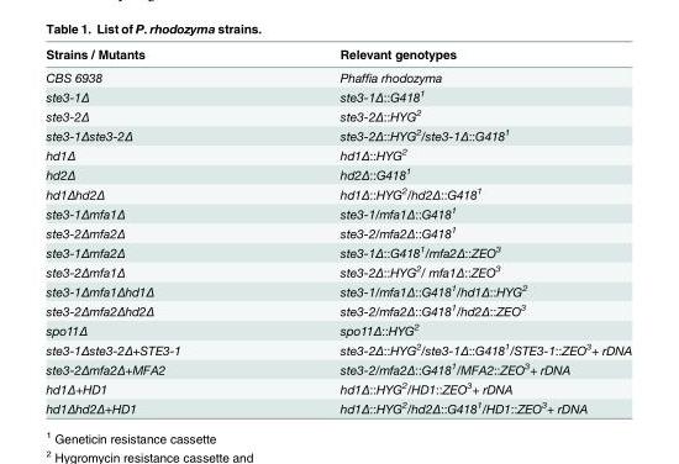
<table><thead><tr><td>Strains / Mutants</td><td>Relevant genotypes</td></tr></thead><tbody><tr><td>CBS 6938</td><td>Phaffia rhodozyma</td></tr><tr><td>ste3-1Δ</td><td>ste3-1Δ::G418<sup>1</sup></td></tr><tr><td>ste3-2Δ</td><td>ste3-2Δ::HYG<sup>2</sup></td></tr><tr><td>ste3-1Δste3-2Δ</td><td>ste3-2Δ::HYG<sup>2</sup>/ste3-1Δ::G418<sup>1</sup></td></tr><tr><td>hd1Δ</td><td>hd1Δ::HYG<sup>2</sup></td></tr><tr><td>hd2Δ</td><td>hd2Δ::G418<sup>1</sup></td></tr><tr><td>hd1Δhd2Δ</td><td>hd1Δ::HYG<sup>2</sup>/hd2Δ::G418<sup>1</sup></td></tr><tr><td>ste3-1Δmfa1Δ</td><td>ste3-1/mfa1Δ::G418<sup>1</sup></td></tr><tr><td>ste3-2Δmfa2Δ</td><td>ste3-2/mfa2Δ::G418<sup>1</sup></td></tr><tr><td>ste3-1Δmfa2Δ</td><td>ste3-1Δ::G418<sup>1</sup>/mfa2Δ::ZEO<sup>3</sup></td></tr><tr><td>ste3-2Δmfa1Δ</td><td>ste3-2Δ::HYG<sup>2</sup>/ mfa1Δ::ZEO<sup>3</sup></td></tr><tr><td>ste3-1Δmfa1Δhd1Δ</td><td>ste3-1/mfa1Δ::G418<sup>1</sup>/hd1Δ::HYG<sup>2</sup></td></tr><tr><td>ste3-2Δmfa2Δhd2Δ</td><td>ste3-2/mfa2Δ::G418<sup>1</sup>/hd2Δ::ZEO<sup>3</sup></td></tr><tr><td>spo11Δ</td><td>spo11Δ::HYG<sup>2</sup></td></tr><tr><td>ste3-1Δste3-2Δ+STE3-1</td><td>ste3-2Δ::HYG<sup>2</sup>/ste3-1Δ::G418<sup>1</sup>/STE3-1::ZEO<sup>3</sup>+ rDNA</td></tr><tr><td>ste3-2Δmfa2Δ+MFA2</td><td>ste3-2/mfa2Δ::G418<sup>1</sup>/MFA2::ZEO<sup>3</sup>+ rDNA</td></tr><tr><td>hd1Δ+HD1</td><td>hd1Δ::HYG<sup>2</sup>/HD1::ZEO<sup>3</sup>+ rDNA</td></tr><tr><td>hd1Δhd2Δ+HD1</td><td>hd1Δ::HYG<sup>2</sup>/hd2Δ::G418<sup>1</sup>/HD1::ZEO<sup>3</sup>+ rDNA</td></tr></tbody></table>